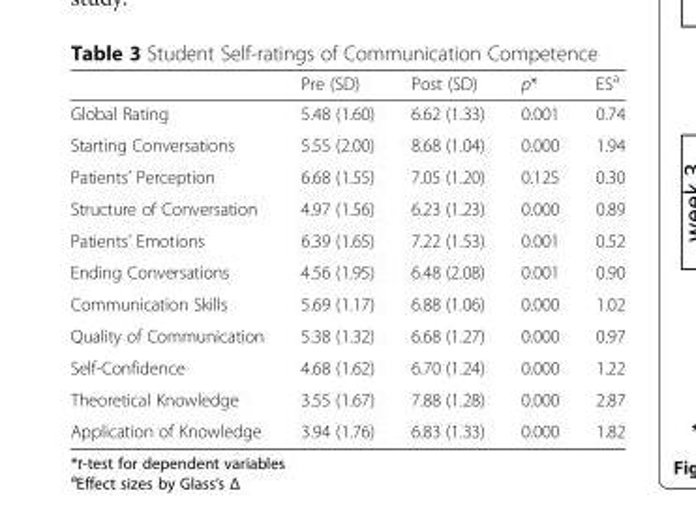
<table><thead><tr><td></td><td>Pre (SD)</td><td>Post (SD)</td><td>p*</td><td>ES<sup>a</sup></td></tr></thead><tbody><tr><td>Global Rating</td><td>5.48 (1.60)</td><td>6.62 (1.33)</td><td>0.001</td><td>0.74</td></tr><tr><td>Starting Conversations</td><td>5.55 (2.00)</td><td>8.68 (1.04)</td><td>0.000</td><td>1.94</td></tr><tr><td>Patients’ Perception</td><td>6.68 (1.55)</td><td>7.05 (1.20)</td><td>0.125</td><td>0.30</td></tr><tr><td>Structure of Conversation</td><td>4.97 (1.56)</td><td>6.23 (1.23)</td><td>0.000</td><td>0.89</td></tr><tr><td>Patients’ Emotions</td><td>6.39 (1.65)</td><td>7.22 (1.53)</td><td>0.001</td><td>0.52</td></tr><tr><td>Ending Conversations</td><td>4.56 (1.95)</td><td>6.48 (2.08)</td><td>0.001</td><td>0.90</td></tr><tr><td>Communication Skills</td><td>5.69 (1.17)</td><td>6.88 (1.06)</td><td>0.000</td><td>1.02</td></tr><tr><td>Quality of Communication</td><td>5.38 (1.32)</td><td>6.68 (1.27)</td><td>0.000</td><td>0.97</td></tr><tr><td>Self-Confidence</td><td>4.68 (1.62)</td><td>6.70 (1.24)</td><td>0.000</td><td>1.22</td></tr><tr><td>Theoretical Knowledge</td><td>3.55 (1.67)</td><td>7.88 (1.28)</td><td>0.000</td><td>2.87</td></tr><tr><td>Application of Knowledge</td><td>3.94 (1.76)</td><td>6.83 (1.33)</td><td>0.000</td><td>1.82</td></tr></tbody></table>